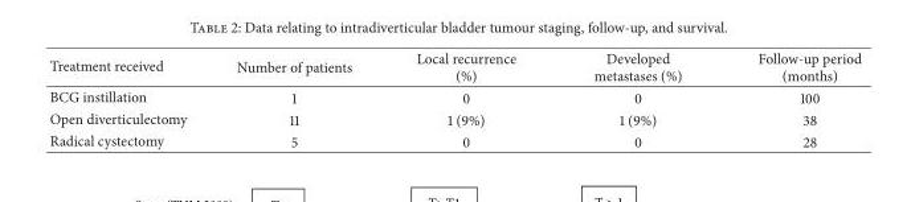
<table><thead><tr><td>Treatment received</td><td>Number of patients</td><td>Local recurrence (%)</td><td>Developed metastases (%)</td><td>Follow-up period (months)</td></tr></thead><tbody><tr><td>BCG instillation</td><td>1</td><td>0</td><td>0</td><td>100</td></tr><tr><td>Open diverticulectomy</td><td>11</td><td>1 (9%)</td><td>1 (9%)</td><td>38</td></tr><tr><td>Radical cystectomy</td><td>5</td><td>0</td><td>0</td><td>28</td></tr></tbody></table>